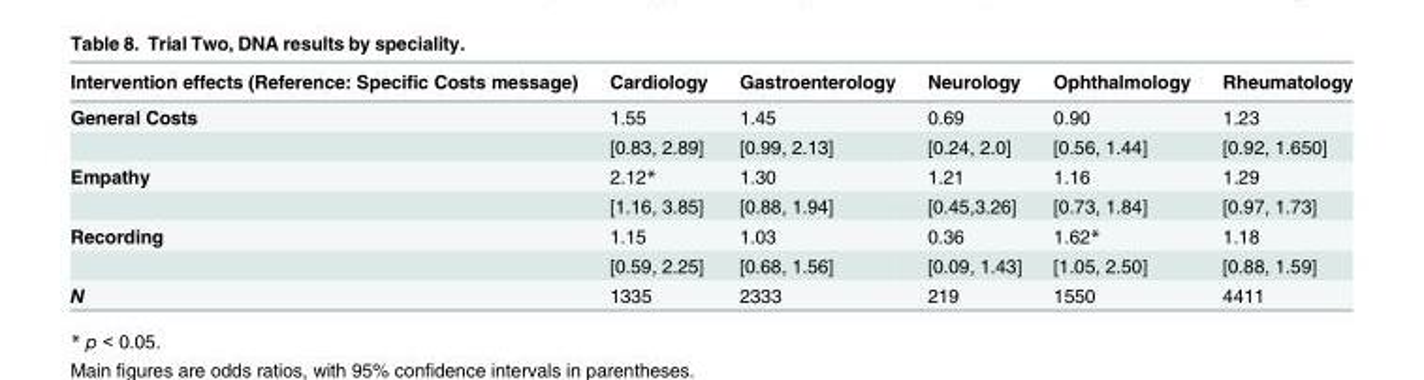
<table><thead><tr><td>Intervention effects (Reference: Specific Costs message)</td><td>Cardiology</td><td>Gastroenterology</td><td>Neurology</td><td>Ophthalmology</td><td>Rheumatology</td></tr></thead><tbody><tr><td rowspan="2">General Costs</td><td>1.55</td><td>1.45</td><td>0.69</td><td>0.90</td><td>1.23</td></tr><tr><td>[0.83, 2.89]</td><td>[0.99, 2.13]</td><td>[0.24, 2.0]</td><td>[0.56, 1.44]</td><td>[0.92, 1.650]</td></tr><tr><td rowspan="2">Empathy</td><td>2.12*</td><td>1.30</td><td>1.21</td><td>1.16</td><td>1.29</td></tr><tr><td>[1.16, 3.85]</td><td>[0.88, 1.94]</td><td>[0.45,3.26]</td><td>[0.73, 1.84]</td><td>[0.97, 1.73]</td></tr><tr><td rowspan="2">Recording</td><td>1.15</td><td>1.03</td><td>0.36</td><td>1.62*</td><td>1.18</td></tr><tr><td>[0.59, 2.25]</td><td>[0.68, 1.56]</td><td>[0.09, 1.43]</td><td>[1.05, 2.50]</td><td>[0.88, 1.59]</td></tr><tr><td>N</td><td>1335</td><td>2333</td><td>219</td><td>1550</td><td>4411</td></tr></tbody></table>